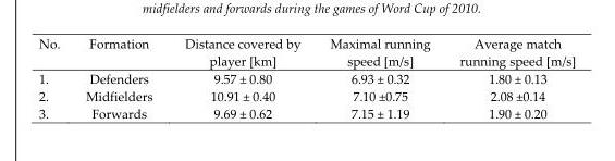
<table><thead><tr><td>No.</td><td>Formation</td><td>Distance covered by player [km]</td><td>Maximal running speed [m/s]</td><td>Average match running speed [m/s]</td></tr></thead><tbody><tr><td>1.</td><td>Defenders</td><td>9.57 ± 0.80</td><td>6.93 ± 0.32</td><td>1.80 ± 0.13</td></tr><tr><td>2.</td><td>Midfielders</td><td>10.91 ± 0.40</td><td>7.10 ±0.75</td><td>2.08 ±0.14</td></tr><tr><td>3.</td><td>Forwards</td><td>9.69 ± 0.62</td><td>7.15 ± 1.19</td><td>1.90 ± 0.20</td></tr></tbody></table>